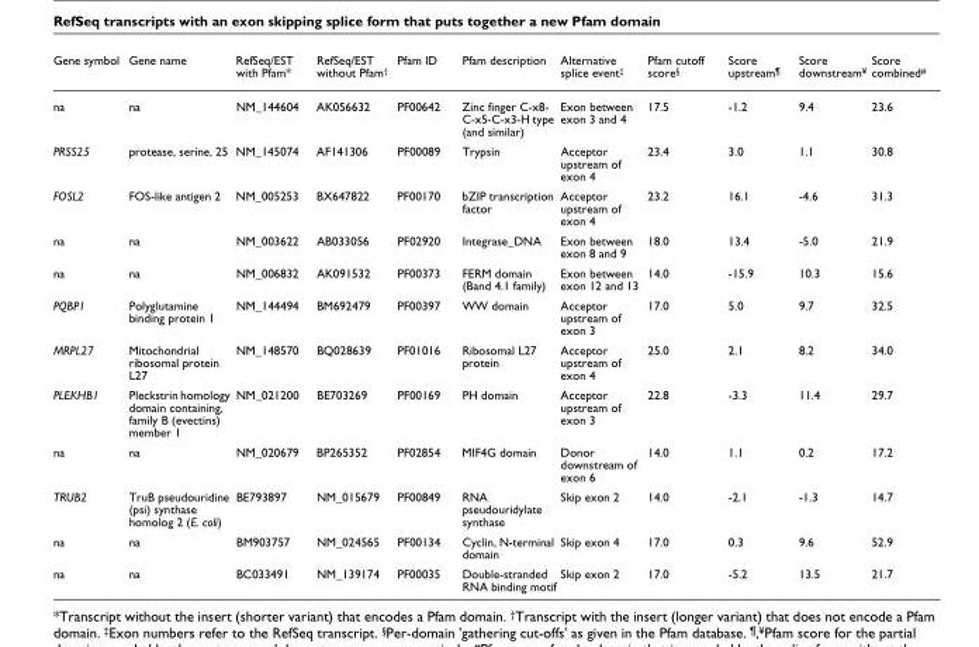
<table><thead><tr><td>Gene symbol</td><td>Gene name</td><td>RefSeq/EST with Pfam*</td><td>RefSeq/EST without Pfam†</td><td>Pfam ID</td><td>Pfam description</td><td>Alternative splice event‡</td><td>Pfam cutoff score§</td><td>Score upstream¶</td><td>Score downstream¥</td><td>Score combined#</td></tr></thead><tbody><tr><td>na</td><td>na</td><td>NM_144604</td><td>AK056632</td><td>PF00642</td><td>Zinc finger C-x8- C-x5-C-x3-H type (and similar)</td><td>Exon between exon 3 and 4</td><td>17.5</td><td>-1.2</td><td>9.4</td><td>23.6</td></tr><tr><td>PRSS25</td><td>protease, serine, 25</td><td>NM_145074</td><td>AF141306</td><td>PF00089</td><td>Trypsin</td><td>Acceptor upstream of exon 4</td><td>23.4</td><td>3.0</td><td>1.1</td><td>30.8</td></tr><tr><td>FOSL2</td><td>FOS-like antigen 2</td><td>NM_005253</td><td>BX647822</td><td>PF00170</td><td>bZIP transcription factor</td><td>Acceptor upstream of exon 4</td><td>23.2</td><td>16.1</td><td>-4.6</td><td>31.3</td></tr><tr><td>na</td><td>na</td><td>NM_003622</td><td>AB033056</td><td>PF02920</td><td>Integrase_DNA</td><td>Exon between exon 8 and 9</td><td>18.0</td><td>13.4</td><td>-5.0</td><td>21.9</td></tr><tr><td>na</td><td>na</td><td>NM_006832</td><td>AK091532</td><td>PF00373</td><td>FERM domain (Band 4.1 family)</td><td>Exon between exon 12 and 13</td><td>14.0</td><td>-15.9</td><td>10.3</td><td>15.6</td></tr><tr><td>PQBP1</td><td>Polyglutamine binding protein 1</td><td>NM_144494</td><td>BM692479</td><td>PF00397</td><td>WW domain</td><td>Acceptor upstream of exon 3</td><td>17.0</td><td>5.0</td><td>9.7</td><td>32.5</td></tr><tr><td>MRPL27</td><td>Mitochondrial ribosomal protein L27</td><td>NM_148570</td><td>BQ028639</td><td>PF01016</td><td>Ribosomal L27 protein</td><td>Acceptor upstream of exon 4</td><td>25.0</td><td>2.1</td><td>8.2</td><td>34.0</td></tr><tr><td>PLEKHB1</td><td>Pleckstrin homology domain containing, family B (evectins) member 1</td><td>NM_021200</td><td>BE703269</td><td>PF00169</td><td>PH domain</td><td>Acceptor upstream of exon 3</td><td>22.8</td><td>-3.3</td><td>11.4</td><td>29.7</td></tr><tr><td>na</td><td>na</td><td>NM_020679</td><td>BP265352</td><td>PF02854</td><td>MIF4G domain</td><td>Donor downstream of exon 6</td><td>14.0</td><td>1.1</td><td>0.2</td><td>17.2</td></tr><tr><td>TRUB2</td><td>TruB pseudouridine (psi) synthase homolog 2 (E. coli)</td><td>BE793897</td><td>NM_015679</td><td>PF00849</td><td>RNA pseudouridylate synthase</td><td>Skip exon 2</td><td>14.0</td><td>-2.1</td><td>-1.3</td><td>14.7</td></tr><tr><td>na</td><td>na</td><td>BM903757</td><td>NM_024565</td><td>PF00134</td><td>Cyclin, N-terminal domain</td><td>Skip exon 4</td><td>17.0</td><td>0.3</td><td>9.6</td><td>52.9</td></tr><tr><td>na</td><td>na</td><td>BC033491</td><td>NM_139174</td><td>PF00035</td><td>Double-stranded RNA binding motif</td><td>Skip exon 2</td><td>17.0</td><td>-5.2</td><td>13.5</td><td>21.7</td></tr></tbody></table>